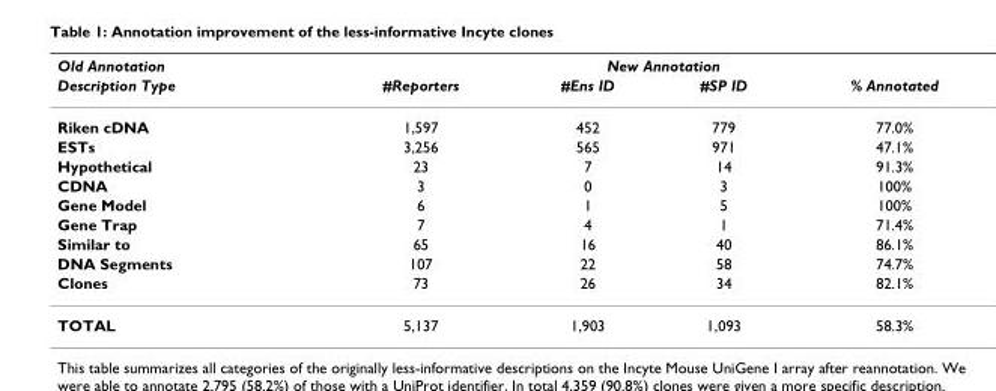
<table><thead><tr><td rowspan="2">Old Annotation Description Type</td><td colspan="4">New Annotation</td></tr><tr><td>#Reporters</td><td>#Ens ID</td><td>#SP ID</td><td>% Annotated</td></tr></thead><tbody><tr><td>Riken cDNA</td><td>1,597</td><td>452</td><td>779</td><td>77.0%</td></tr><tr><td>ESTs</td><td>3,256</td><td>565</td><td>971</td><td>47.1%</td></tr><tr><td>Hypothetical</td><td>23</td><td>7</td><td>14</td><td>91.3%</td></tr><tr><td>CDNA</td><td>3</td><td>0</td><td>3</td><td>100%</td></tr><tr><td>Gene Model</td><td>6</td><td>1</td><td>5</td><td>100%</td></tr><tr><td>Gene Trap</td><td>7</td><td>4</td><td>1</td><td>71.4%</td></tr><tr><td>Similar to</td><td>65</td><td>16</td><td>40</td><td>86.1%</td></tr><tr><td>DNA Segments</td><td>107</td><td>22</td><td>58</td><td>74.7%</td></tr><tr><td>Clones</td><td>73</td><td>26</td><td>34</td><td>82.1%</td></tr><tr><td>TOTAL</td><td>5,137</td><td>1,903</td><td>1,093</td><td>58.3%</td></tr></tbody></table>